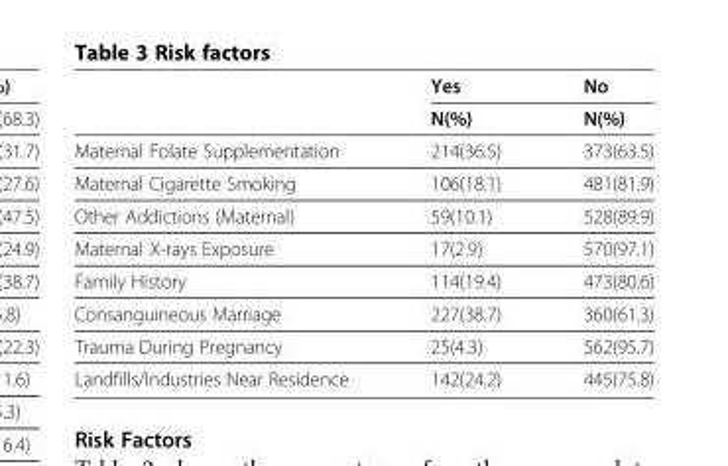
<table><thead><tr><td rowspan="2"></td><td rowspan="2">Yes N(%)</td><td rowspan="2">No N(%)</td></tr><tr></tr></thead><tbody><tr><td>Maternal Folate Supplementation</td><td>214(36.5)</td><td>373(63.5)</td></tr><tr><td>Maternal Cigarette Smoking</td><td>106(18.1)</td><td>481(81.9)</td></tr><tr><td>Other Addictions (Maternal)</td><td>59(10.1)</td><td>528(89.9)</td></tr><tr><td>Maternal X-rays Exposure</td><td>17(2.9)</td><td>570(97.1)</td></tr><tr><td>Family History</td><td>114(19.4)</td><td>473(80.6)</td></tr><tr><td>Consanguineous Marriage</td><td>227(38.7)</td><td>360(61.3)</td></tr><tr><td>Trauma During Pregnancy</td><td>25(4.3)</td><td>562(95.7)</td></tr><tr><td>Landfills/Industries Near Residence</td><td>142(24.2)</td><td>445(75.8)</td></tr></tbody></table>